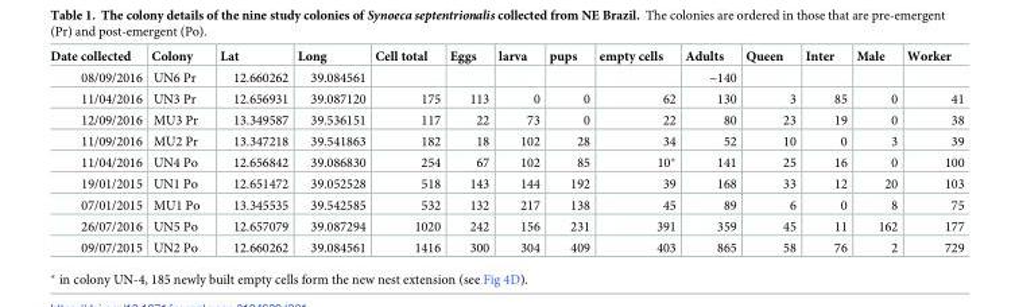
<table><thead><tr><td>Date collected</td><td>Colony</td><td>Lat</td><td>Long</td><td>Cell total</td><td>Eggs</td><td>larva</td><td>pups</td><td>empty cells</td><td>Adults</td><td>Queen</td><td>Inter</td><td>Male</td><td>Worker</td></tr></thead><tbody><tr><td>08/09/2016</td><td>UN6 Pr</td><td>12.660262</td><td>39.084561</td><td></td><td></td><td></td><td></td><td></td><td>~140</td><td></td><td></td><td></td><td></td></tr><tr><td>11/04/2016</td><td>UN3 Pr</td><td>12.656931</td><td>39.087120</td><td>175</td><td>113</td><td>0</td><td>0</td><td>62</td><td>130</td><td>3</td><td>85</td><td>0</td><td>41</td></tr><tr><td>12/09/2016</td><td>MU3 Pr</td><td>13.349587</td><td>39.536151</td><td>117</td><td>22</td><td>73</td><td>0</td><td>22</td><td>80</td><td>23</td><td>19</td><td>0</td><td>38</td></tr><tr><td>11/09/2016</td><td>MU2 Pr</td><td>13.347218</td><td>39.541863</td><td>182</td><td>18</td><td>102</td><td>28</td><td>34</td><td>52</td><td>10</td><td>0</td><td>3</td><td>39</td></tr><tr><td>11/04/2016</td><td>UN4 Po</td><td>12.656842</td><td>39.086830</td><td>254</td><td>67</td><td>102</td><td>85</td><td>10*</td><td>141</td><td>25</td><td>16</td><td>0</td><td>100</td></tr><tr><td>19/01/2015</td><td>UN1 Po</td><td>12.651472</td><td>39.052528</td><td>518</td><td>143</td><td>144</td><td>192</td><td>39</td><td>168</td><td>33</td><td>12</td><td>20</td><td>103</td></tr><tr><td>07/01/2015</td><td>MU1 Po</td><td>13.345535</td><td>39.542585</td><td>532</td><td>132</td><td>217</td><td>138</td><td>45</td><td>89</td><td>6</td><td>0</td><td>8</td><td>75</td></tr><tr><td>26/07/2016</td><td>UN5 Po</td><td>12.657079</td><td>39.087294</td><td>1020</td><td>242</td><td>156</td><td>231</td><td>391</td><td>359</td><td>45</td><td>11</td><td>162</td><td>177</td></tr><tr><td>09/07/2015</td><td>UN2 Po</td><td>12.660262</td><td>39.084561</td><td>1416</td><td>300</td><td>304</td><td>409</td><td>403</td><td>865</td><td>58</td><td>76</td><td>2</td><td>729</td></tr></tbody></table>